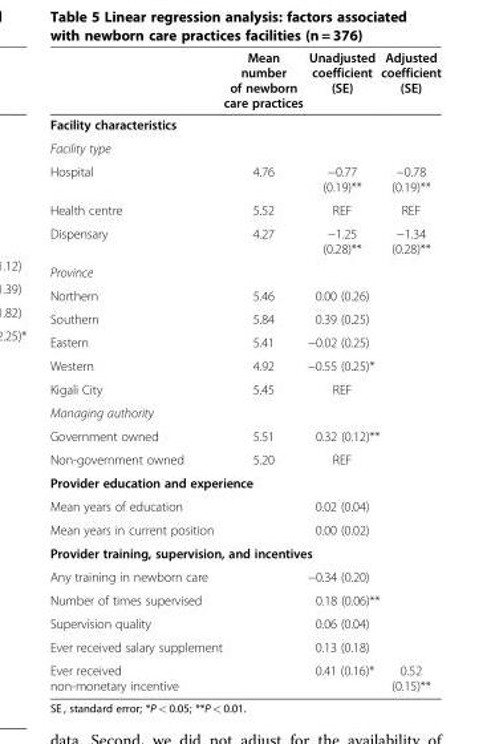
<table><thead><tr><td></td><td>Mean number of newborn care practices</td><td>Unadjusted coefficient (SE)</td><td>Adjusted coefficient (SE)</td></tr></thead><tbody><tr><td colspan="4">Facility characteristics</td></tr><tr><td colspan="4">Facility type</td></tr><tr><td>Hospital</td><td>4.76</td><td>−0.77 (0.19)**</td><td>−0.78 (0.19)**</td></tr><tr><td>Health centre</td><td>5.52</td><td>REF</td><td>REF</td></tr><tr><td>Dispensary</td><td>4.27</td><td>−1.25 (0.28)**</td><td>−1.34 (0.28)**</td></tr><tr><td colspan="4">Province</td></tr><tr><td>Northern</td><td>5.46</td><td>0.00 (0.26)</td><td></td></tr><tr><td>Southern</td><td>5.84</td><td>0.39 (0.25)</td><td></td></tr><tr><td>Eastern</td><td>5.41</td><td>−0.02 (0.25)</td><td></td></tr><tr><td>Western</td><td>4.92</td><td>−0.55 (0.25)*</td><td></td></tr><tr><td>Kigali City</td><td>5.45</td><td>REF</td><td></td></tr><tr><td colspan="4">Managing authority</td></tr><tr><td>Government owned</td><td>5.51</td><td>0.32 (0.12)**</td><td></td></tr><tr><td>Non-government owned</td><td>5.20</td><td>REF</td><td></td></tr><tr><td colspan="4">Provider education and experience</td></tr><tr><td>Mean years of education</td><td></td><td>0.02 (0.04)</td><td></td></tr><tr><td>Mean years in current position</td><td></td><td>0.00 (0.02)</td><td></td></tr><tr><td colspan="4">Provider training, supervision, and incentives</td></tr><tr><td>Any training in newborn care</td><td></td><td>−0.34 (0.20)</td><td></td></tr><tr><td>Number of times supervised</td><td></td><td>0.18 (0.06)**</td><td></td></tr><tr><td>Supervision quality</td><td></td><td>0.06 (0.04)</td><td></td></tr><tr><td>Ever received salary supplement</td><td></td><td>0.13 (0.18)</td><td></td></tr><tr><td>Ever received non-monetary incentive</td><td></td><td>0.41 (0.16)*</td><td>0.52 (0.15)**</td></tr></tbody></table>